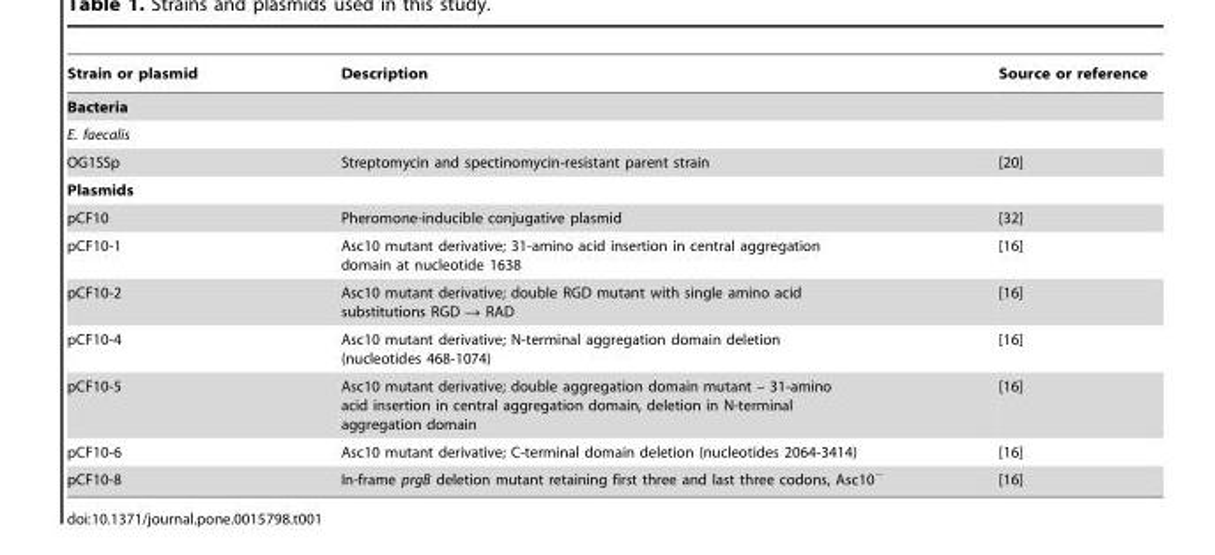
<table><thead><tr><td>Strain or plasmid</td><td>Description</td><td>Source or reference</td></tr></thead><tbody><tr><td colspan="3">Bacteria</td></tr><tr><td colspan="3">E. faecalis</td></tr><tr><td>OG1SSp</td><td>Streptomycin and spectinomycin-resistant parent strain</td><td>[20]</td></tr><tr><td colspan="3">Plasmids</td></tr><tr><td>pCF10</td><td>Pheromone-inducible conjugative plasmid</td><td>[32]</td></tr><tr><td>pCF10-1</td><td>Asc10 mutant derivative; 31-amino acid insertion in central aggregation domain at nucleotide 1638</td><td>[16]</td></tr><tr><td>pCF10-2</td><td>Asc10 mutant derivative; double RGD mutant with single amino acid substitutions RGD → RAD</td><td>[16]</td></tr><tr><td>pCF10-4</td><td>Asc10 mutant derivative; N-terminal aggregation domain deletion (nucleotides 468-1074)</td><td>[16]</td></tr><tr><td>pCF10-5</td><td>Asc10 mutant derivative; double aggregation domain mutant – 31-amino acid insertion in central aggregation domain, deletion in N-terminal aggregation domain</td><td>[16]</td></tr><tr><td>pCF10-6</td><td>Asc10 mutant derivative; C-terminal domain deletion (nucleotides 2064-3414)</td><td>[16]</td></tr><tr><td>pCF10-8</td><td>In-frame prgB deletion mutant retaining first three and last three codons, Asc10<sup>−</sup></td><td>[16]</td></tr></tbody></table>